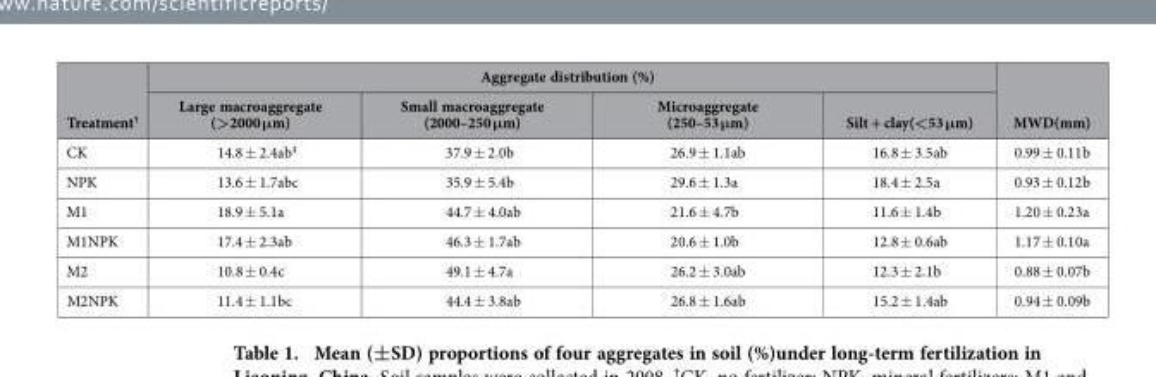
<table><thead><tr><td rowspan="2">Treatment†</td><td colspan="4">Aggregate distribution (%)</td><td rowspan="2">MWD(mm)</td></tr><tr><td>Large macroaggregate (&gt;2000 μm)</td><td>Small macroaggregate (2000–250 μm)</td><td>Microaggregate (250–53 μm)</td><td>Silt + clay(&lt;53 μm)</td></tr></thead><tbody><tr><td>CK</td><td>14.8 ± 2.4ab‡</td><td>37.9 ± 2.0b</td><td>26.9 ± 1.1ab</td><td>16.8 ± 3.5ab</td><td>0.99 ± 0.11b</td></tr><tr><td>NPK</td><td>13.6 ± 1.7abc</td><td>35.9 ± 5.4b</td><td>29.6 ± 1.3a</td><td>18.4 ± 2.5a</td><td>0.93 ± 0.12b</td></tr><tr><td>M1</td><td>18.9 ± 5.1a</td><td>44.7 ± 4.0ab</td><td>21.6 ± 4.7b</td><td>11.6 ± 1.4b</td><td>1.20 ± 0.23a</td></tr><tr><td>M1NPK</td><td>17.4 ± 2.3ab</td><td>46.3 ± 1.7ab</td><td>20.6 ± 1.0b</td><td>12.8 ± 0.6ab</td><td>1.17 ± 0.10a</td></tr><tr><td>M2</td><td>10.8 ± 0.4c</td><td>49.1 ± 4.7a</td><td>26.2 ± 3.0ab</td><td>12.3 ± 2.1b</td><td>0.88 ± 0.07b</td></tr><tr><td>M2NPK</td><td>11.4 ± 1.1bc</td><td>44.4 ± 3.8ab</td><td>26.8 ± 1.6ab</td><td>15.2 ± 1.4ab</td><td>0.94 ± 0.09b</td></tr></tbody></table>